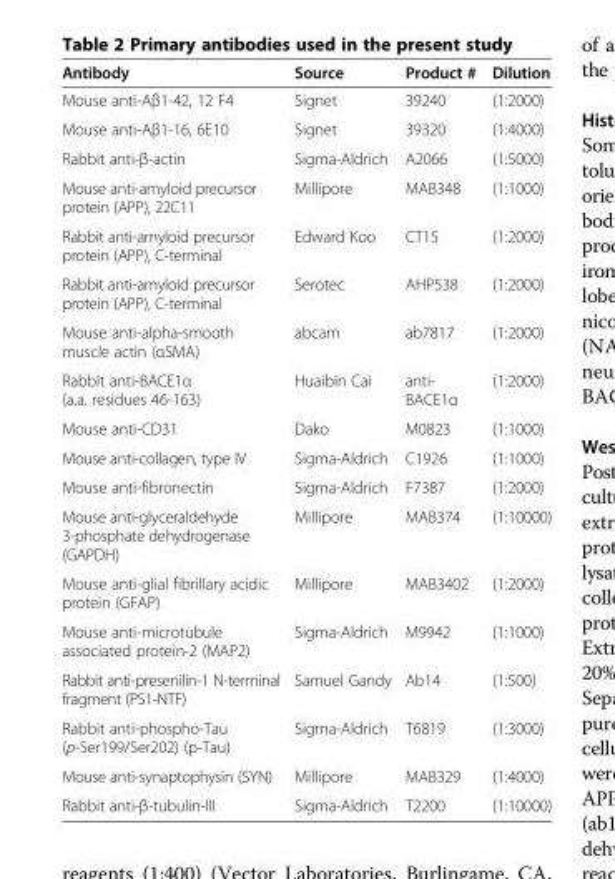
<table><thead><tr><td>Antibody</td><td>Source</td><td>Product #</td><td>Dilution</td></tr></thead><tbody><tr><td>Mouse anti-Aβ1-42, 12 F4</td><td>Signet</td><td>39240</td><td>(1:2000)</td></tr><tr><td>Mouse anti-Aβ1-16, 6E10</td><td>Signet</td><td>39320</td><td>(1:4000)</td></tr><tr><td>Rabbit anti-β-actin</td><td>Sigma-Aldrich</td><td>A2066</td><td>(1:5000)</td></tr><tr><td>Mouse anti-amyloid precursor protein (APP), 22C11</td><td>Millipore</td><td>MAB348</td><td>(1:1000)</td></tr><tr><td>Rabbit anti-amyloid precursor protein (APP), C-terminal</td><td>Edward Koo</td><td>CT15</td><td>(1:2000)</td></tr><tr><td>Rabbit anti-amyloid precursor protein (APP), C-terminal</td><td>Serotec</td><td>AHP538</td><td>(1:2000)</td></tr><tr><td>Mouse anti-alpha-smooth muscle actin (αSMA)</td><td>abcam</td><td>ab7817</td><td>(1:2000)</td></tr><tr><td>Rabbit anti-BACE1α (a.a. residues 46-163)</td><td>Huaibin Cai</td><td>anti- BACE1α</td><td>(1:2000)</td></tr><tr><td>Mouse anti-CD31</td><td>Dako</td><td>M0823</td><td>(1:1000)</td></tr><tr><td>Mouse anti-collagen, type IV</td><td>Sigma-Aldrich</td><td>C1926</td><td>(1:1000)</td></tr><tr><td>Mouse anti-fibronectin</td><td>Sigma-Aldrich</td><td>F7387</td><td>(1:2000)</td></tr><tr><td>Mouse anti-glyceraldehyde 3-phosphate dehydrogenase (GAPDH)</td><td>Millipore</td><td>MAB374</td><td>(1:10000)</td></tr><tr><td>Mouse anti-glial fibrillary acidic protein (GFAP)</td><td>Millipore</td><td>MAB3402</td><td>(1:2000)</td></tr><tr><td>Mouse anti-microtubule associated protein-2 (MAP2)</td><td>Sigma-Aldrich</td><td>M9942</td><td>(1:1000)</td></tr><tr><td>Rabbit anti-presenilin-1 N-terminal fragment (PS1-NTF)</td><td>Samuel Gandy</td><td>Ab14</td><td>(1:500)</td></tr><tr><td>Rabbit anti-phospho-Tau (p-Ser199/Ser202) (p-Tau)</td><td>Sigma-Aldrich</td><td>T6819</td><td>(1:3000)</td></tr><tr><td>Mouse anti-synaptophysin (SYN)</td><td>Millipore</td><td>MAB329</td><td>(1:4000)</td></tr><tr><td>Rabbit anti-β-tubulin-III</td><td>Sigma-Aldrich</td><td>T2200</td><td>(1:10000)</td></tr></tbody></table>